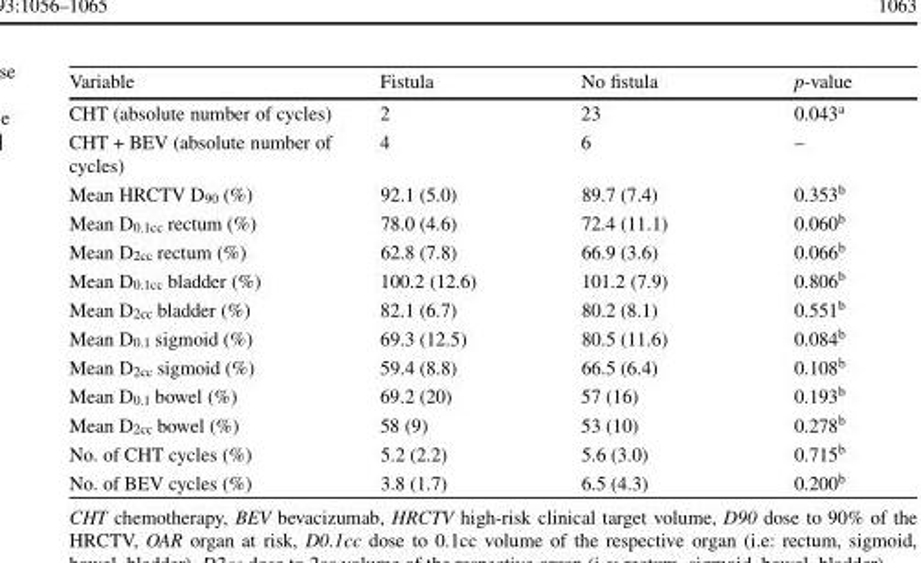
<table><thead><tr><td>Variable</td><td>Fistula</td><td>No fistula</td><td>p-value</td></tr></thead><tbody><tr><td>CHT (absolute number of cycles)</td><td>2</td><td>23</td><td>0.043<sup>a</sup></td></tr><tr><td>CHT + BEV (absolute number of cycles)</td><td>4</td><td>6</td><td>–</td></tr><tr><td>Mean HRCTV D<sub>90</sub> (%)</td><td>92.1 (5.0)</td><td>89.7 (7.4)</td><td>0.353<sup>b</sup></td></tr><tr><td>Mean D<sub>0.1cc</sub> rectum (%)</td><td>78.0 (4.6)</td><td>72.4 (11.1)</td><td>0.060<sup>b</sup></td></tr><tr><td>Mean D<sub>2cc</sub> rectum (%)</td><td>62.8 (7.8)</td><td>66.9 (3.6)</td><td>0.066<sup>b</sup></td></tr><tr><td>Mean D<sub>0.1cc</sub> bladder (%)</td><td>100.2 (12.6)</td><td>101.2 (7.9)</td><td>0.806<sup>b</sup></td></tr><tr><td>Mean D<sub>2cc</sub> bladder (%)</td><td>82.1 (6.7)</td><td>80.2 (8.1)</td><td>0.551<sup>b</sup></td></tr><tr><td>Mean D<sub>0.1</sub> sigmoid (%)</td><td>69.3 (12.5)</td><td>80.5 (11.6)</td><td>0.084<sup>b</sup></td></tr><tr><td>Mean D<sub>2cc</sub> sigmoid (%)</td><td>59.4 (8.8)</td><td>66.5 (6.4)</td><td>0.108<sup>b</sup></td></tr><tr><td>Mean D<sub>0.1</sub> bowel (%)</td><td>69.2 (20)</td><td>57 (16)</td><td>0.193<sup>b</sup></td></tr><tr><td>Mean D<sub>2cc</sub> bowel (%)</td><td>58 (9)</td><td>53 (10)</td><td>0.278<sup>b</sup></td></tr><tr><td>No. of CHT cycles (%)</td><td>5.2 (2.2)</td><td>5.6 (3.0)</td><td>0.715<sup>b</sup></td></tr><tr><td>No. of BEV cycles (%)</td><td>3.8 (1.7)</td><td>6.5 (4.3)</td><td>0.200<sup>b</sup></td></tr></tbody></table>